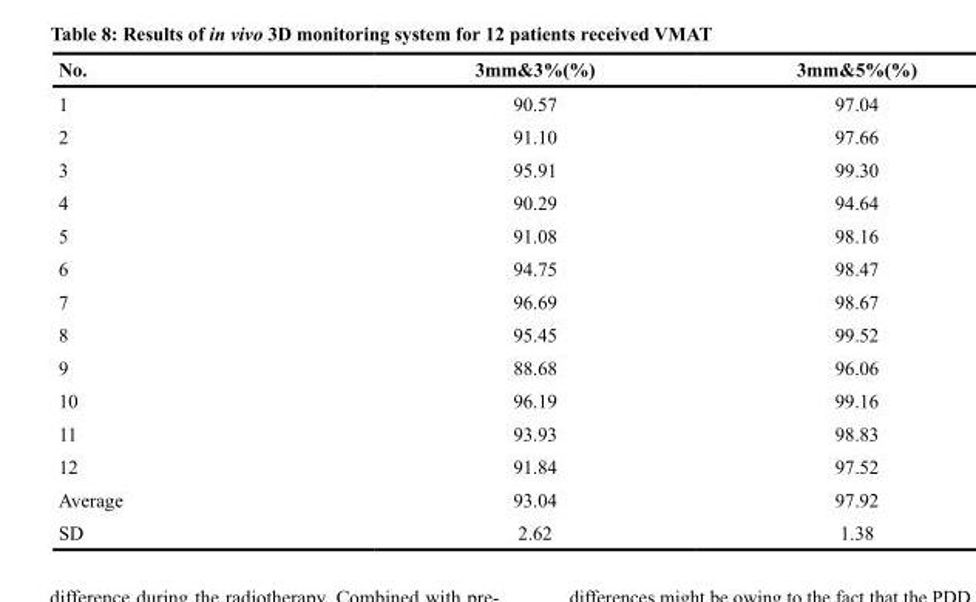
<table><thead><tr><td>No.</td><td>3mm&amp;3%(%)</td><td>3mm&amp;5%(%)</td></tr></thead><tbody><tr><td>1</td><td>90.57</td><td>97.04</td></tr><tr><td>2</td><td>91.10</td><td>97.66</td></tr><tr><td>3</td><td>95.91</td><td>99.30</td></tr><tr><td>4</td><td>90.29</td><td>94.64</td></tr><tr><td>5</td><td>91.08</td><td>98.16</td></tr><tr><td>6</td><td>94.75</td><td>98.47</td></tr><tr><td>7</td><td>96.69</td><td>98.67</td></tr><tr><td>8</td><td>95.45</td><td>99.52</td></tr><tr><td>9</td><td>88.68</td><td>96.06</td></tr><tr><td>10</td><td>96.19</td><td>99.16</td></tr><tr><td>11</td><td>93.93</td><td>98.83</td></tr><tr><td>12</td><td>91.84</td><td>97.52</td></tr><tr><td>Average</td><td>93.04</td><td>97.92</td></tr><tr><td>SD</td><td>2.62</td><td>1.38</td></tr></tbody></table>